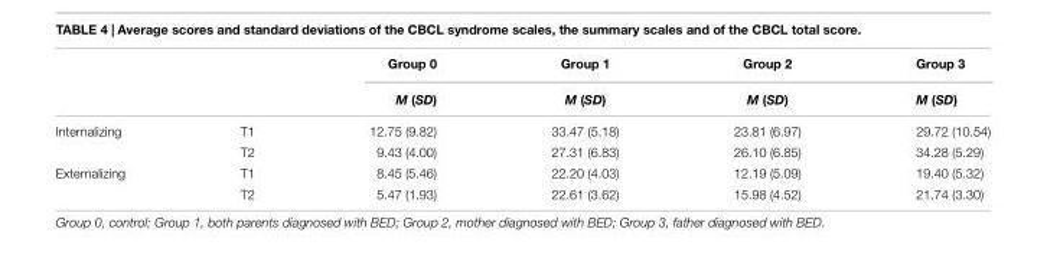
<table><thead><tr><td rowspan="2"></td><td rowspan="2"></td><td rowspan="2">Group 0 M (SD)</td><td rowspan="2">Group 1 M (SD)</td><td rowspan="2">Group 2 M (SD)</td><td rowspan="2">Group 3 M (SD)</td></tr><tr></tr></thead><tbody><tr><td rowspan="2">Internalizing</td><td>T1</td><td>12.75 (9.82)</td><td>33.47 (5.18)</td><td>23.81 (6.97)</td><td>29.72 (10.54)</td></tr><tr><td>T2</td><td>9.43 (4.00)</td><td>27.31 (6.83)</td><td>26.10 (6.85)</td><td>34.28 (5.29)</td></tr><tr><td rowspan="2">Externalizing</td><td>T1</td><td>8.45 (5.46)</td><td>22.20 (4.03)</td><td>12.19 (5.09)</td><td>19.40 (5.32)</td></tr><tr><td>T2</td><td>5.47 (1.93)</td><td>22.61 (3.62)</td><td>15.98 (4.52)</td><td>21.74 (3.30)</td></tr></tbody></table>